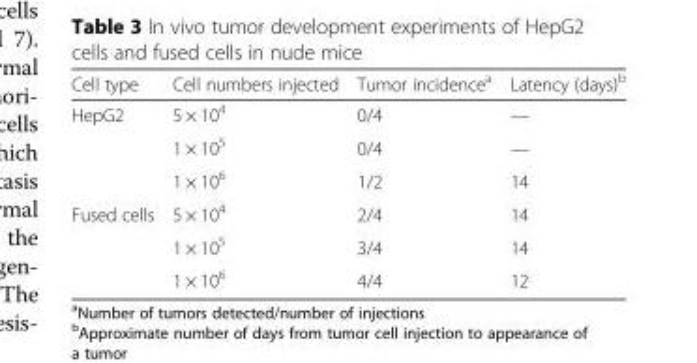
<table><thead><tr><td>Cell type</td><td>Cell numbers injected</td><td>Tumor incidence<sup>a</sup></td><td>Latency (days)<sup>b</sup></td></tr></thead><tbody><tr><td rowspan="3">HepG2</td><td>5 × 10<sup>4</sup></td><td>0/4</td><td>—</td></tr><tr><td>1 × 10<sup>5</sup></td><td>0/4</td><td>—</td></tr><tr><td>1 × 10<sup>6</sup></td><td>1/2</td><td>14</td></tr><tr><td rowspan="3">Fused cells</td><td>5 × 10<sup>4</sup></td><td>2/4</td><td>14</td></tr><tr><td>1 × 10<sup>5</sup></td><td>3/4</td><td>14</td></tr><tr><td>1 × 10<sup>6</sup></td><td>4/4</td><td>12</td></tr></tbody></table>